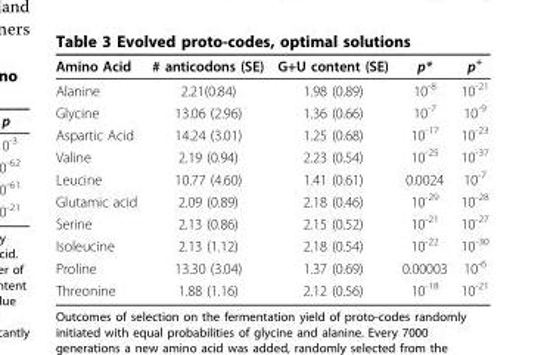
<table><thead><tr><td>Amino Acid</td><td># anticodons (SE)</td><td>G+U content (SE)</td><td>p*</td><td>p<sup>+</sup></td></tr></thead><tbody><tr><td>Alanine</td><td>2.21(0.84)</td><td>1.98 (0.89)</td><td>10<sup>-8</sup></td><td>10<sup>-21</sup></td></tr><tr><td>Glycine</td><td>13.06 (2.96)</td><td>1.36 (0.66)</td><td>10<sup>-7</sup></td><td>10<sup>-9</sup></td></tr><tr><td>Aspartic Acid</td><td>14.24 (3.01)</td><td>1.25 (0.68)</td><td>10<sup>-17</sup></td><td>10<sup>-23</sup></td></tr><tr><td>Valine</td><td>2.19 (0.94)</td><td>2.23 (0.54)</td><td>10<sup>-25</sup></td><td>10<sup>-37</sup></td></tr><tr><td>Leucine</td><td>10.77 (4.60)</td><td>1.41 (0.61)</td><td>0.0024</td><td>10<sup>-7</sup></td></tr><tr><td>Glutamic acid</td><td>2.09 (0.89)</td><td>2.18 (0.46)</td><td>10<sup>-29</sup></td><td>10<sup>-28</sup></td></tr><tr><td>Serine</td><td>2.13 (0.86)</td><td>2.15 (0.52)</td><td>10<sup>-21</sup></td><td>10<sup>-27</sup></td></tr><tr><td>Isoleucine</td><td>2.13 (1.12)</td><td>2.18 (0.54)</td><td>10<sup>-22</sup></td><td>10<sup>-30</sup></td></tr><tr><td>Proline</td><td>13.30 (3.04)</td><td>1.37 (0.69)</td><td>0.00003</td><td>10<sup>-6</sup></td></tr><tr><td>Threonine</td><td>1.88 (1.16)</td><td>2.12 (0.56)</td><td>10<sup>-18</sup></td><td>10<sup>-21</sup></td></tr></tbody></table>